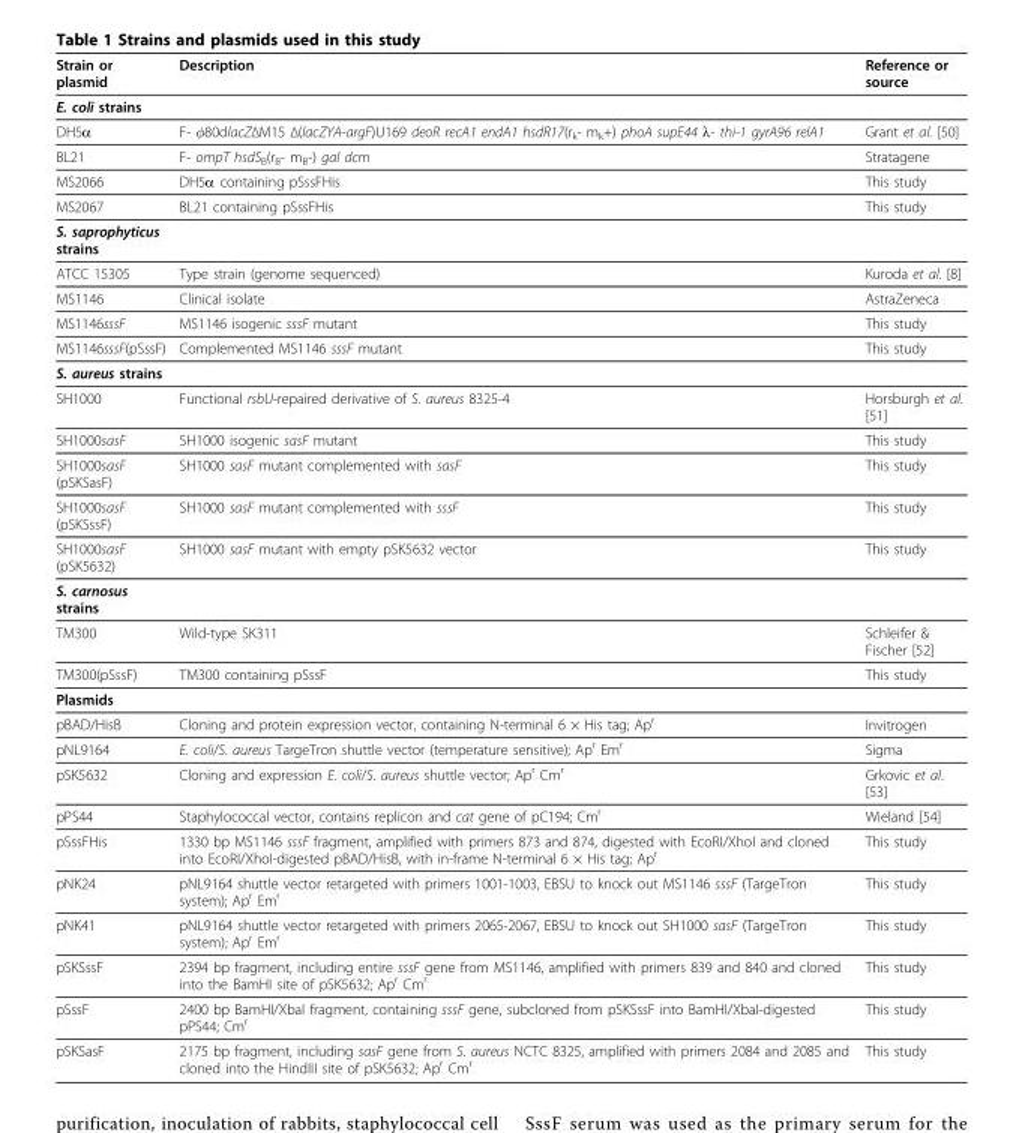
<table><thead><tr><td>Strain or plasmid</td><td>Description</td><td>Reference or source</td></tr></thead><tbody><tr><td colspan="3">E. coli strains</td></tr><tr><td>DH5α</td><td>F- φ80dlacZΔM15 Δ(lacZYA-argF)U169 deoR recA1 endA1 hsdR17(r<sub>k</sub>- m<sub>k</sub>+) phoA supE44 λ- thi-1 gyrA96 relA1</td><td>Grant et al. [50]</td></tr><tr><td>BL21</td><td>F- ompT hsdS<sub>B</sub>(r<sub>B</sub>- m<sub>B</sub>-) gal dcm</td><td>Stratagene</td></tr><tr><td>MS2066</td><td>DH5α containing pSssFHis</td><td>This study</td></tr><tr><td>MS2067</td><td>BL21 containing pSssFHis</td><td>This study</td></tr><tr><td colspan="3">S. saprophyticus strains</td></tr><tr><td>ATCC 15305</td><td>Type strain (genome sequenced)</td><td>Kuroda et al. [8]</td></tr><tr><td>MS1146</td><td>Clinical isolate</td><td>AstraZeneca</td></tr><tr><td>MS1146sssF</td><td>MS1146 isogenic sssF mutant</td><td>This study</td></tr><tr><td>MS1146sssF(pSssF)</td><td>Complemented MS1146 sssF mutant</td><td>This study</td></tr><tr><td colspan="3">S. aureus strains</td></tr><tr><td>SH1000</td><td>Functional rsbU-repaired derivative of S. aureus 8325-4</td><td>Horsburgh et al. [51]</td></tr><tr><td>SH1000sasF</td><td>SH1000 isogenic sasF mutant</td><td>This study</td></tr><tr><td>SH1000sasF (pSKSasF)</td><td>SH1000 sasF mutant complemented with sasF</td><td>This study</td></tr><tr><td>SH1000sasF (pSKSssF)</td><td>SH1000 sasF mutant complemented with sssF</td><td>This study</td></tr><tr><td>SH1000sasF (pSK5632)</td><td>SH1000 sasF mutant with empty pSK5632 vector</td><td>This study</td></tr><tr><td colspan="3">S. carnosus strains</td></tr><tr><td>TM300</td><td>Wild-type SK311</td><td>Schleifer &amp; Fischer [52]</td></tr><tr><td>TM300(pSssF)</td><td>TM300 containing pSssF</td><td>This study</td></tr><tr><td colspan="3">Plasmids</td></tr><tr><td>pBAD/HisB</td><td>Cloning and protein expression vector, containing N-terminal 6 × His tag; Ap<sup>r</sup></td><td>Invitrogen</td></tr><tr><td>pNL9164</td><td>E. coli/S. aureus TargeTron shuttle vector (temperature sensitive); Ap<sup>r</sup> Em<sup>r</sup></td><td>Sigma</td></tr><tr><td>pSK5632</td><td>Cloning and expression E. coli/S. aureus shuttle vector; Ap<sup>r</sup> Cm<sup>r</sup></td><td>Grkovic et al. [53]</td></tr><tr><td>pPS44</td><td>Staphylococcal vector, contains replicon and cat gene of pC194; Cm<sup>r</sup></td><td>Wieland [54]</td></tr><tr><td>pSssFHis</td><td>1330 bp MS1146 sssF fragment, amplified with primers 873 and 874, digested with EcoRI/XhoI and cloned into EcoRI/XhoI-digested pBAD/HisB, with in-frame N-terminal 6 × His tag; Ap<sup>r</sup></td><td>This study</td></tr><tr><td>pNK24</td><td>pNL9164 shuttle vector retargeted with primers 1001-1003, EBSU to knock out MS1146 sssF (TargeTron system); Ap<sup>r</sup> Em<sup>r</sup></td><td>This study</td></tr><tr><td>pNK41</td><td>pNL9164 shuttle vector retargeted with primers 2065-2067, EBSU to knock out SH1000 sasF (TargeTron system); Ap<sup>r</sup> Em<sup>r</sup></td><td>This study</td></tr><tr><td>pSKSssF</td><td>2394 bp fragment, including entire sssF gene from MS1146, amplified with primers 839 and 840 and cloned into the BamHI site of pSK5632; Ap<sup>r</sup> Cm<sup>r</sup></td><td>This study</td></tr><tr><td>pSssF</td><td>2400 bp BamHI/XbaI fragment, containing sssF gene, subcloned from pSKSssF into BamHI/XbaI-digested pPS44; Cm<sup>r</sup></td><td>This study</td></tr><tr><td>pSKSasF</td><td>2175 bp fragment, including sasF gene from S. aureus NCTC 8325, amplified with primers 2084 and 2085 and cloned into the HindIII site of pSK5632; Ap<sup>r</sup> Cm<sup>r</sup></td><td>This study</td></tr></tbody></table>